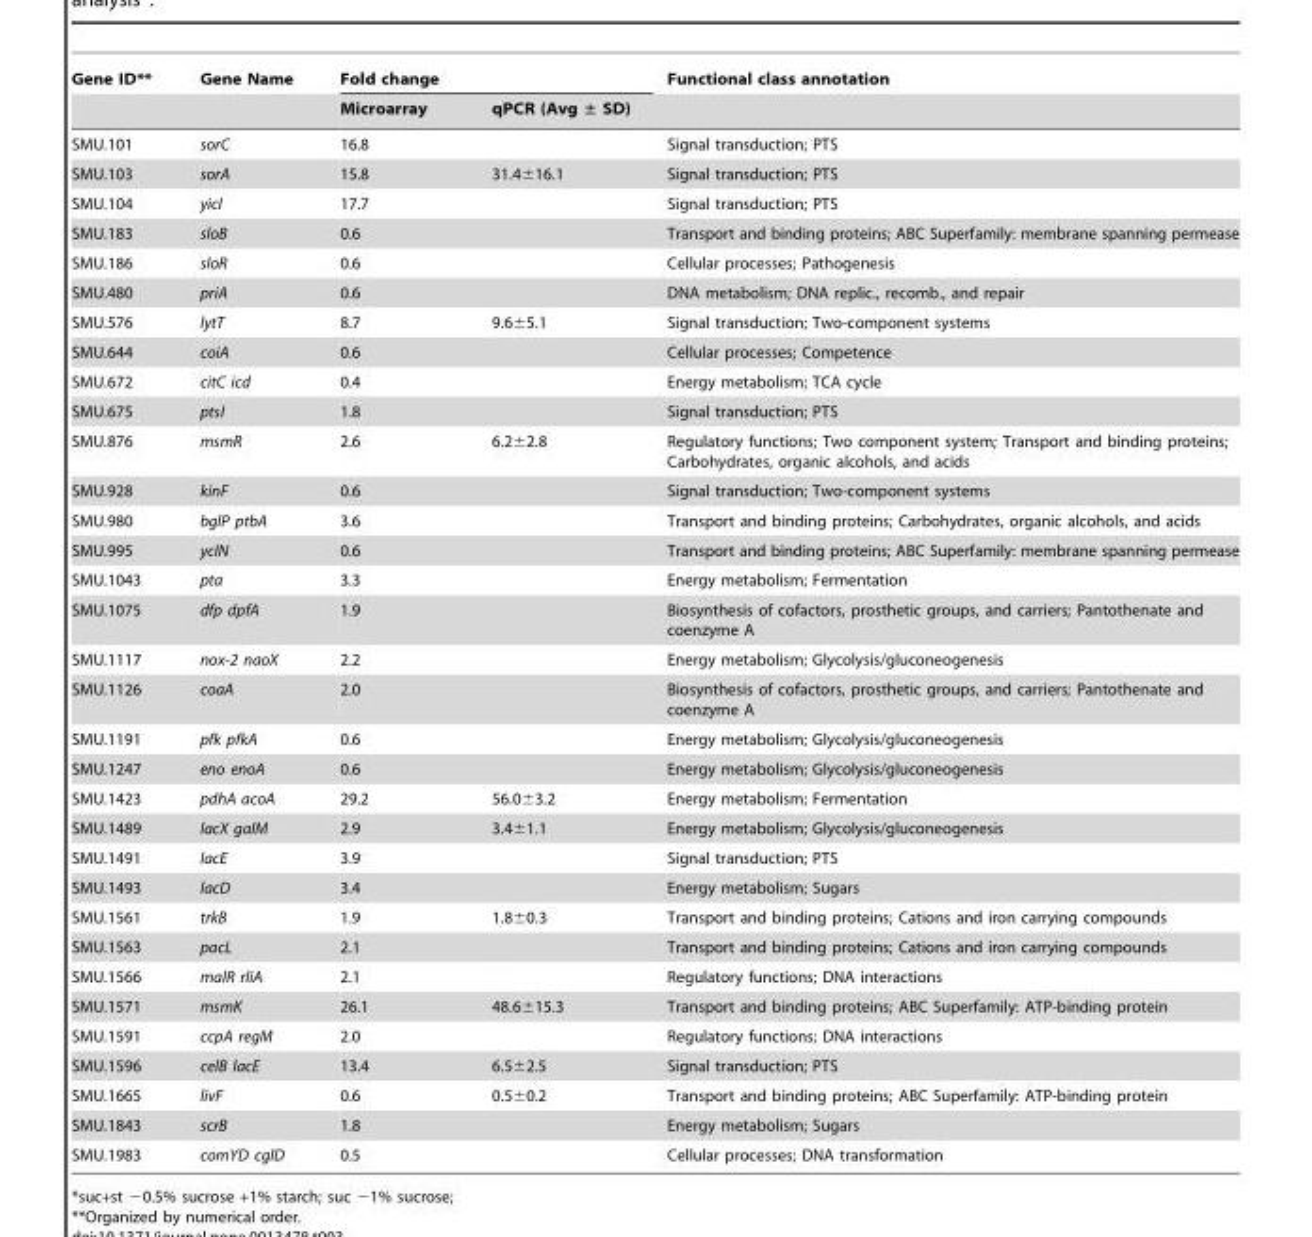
<table><thead><tr><td rowspan="2">Gene ID**</td><td rowspan="2">Gene Name</td><td colspan="2">Fold change</td><td rowspan="2">Functional class annotation</td></tr><tr><td>Microarray</td><td>qPCR (Avg ± SD)</td></tr></thead><tbody><tr><td>SMU.101</td><td>sorC</td><td>16.8</td><td></td><td>Signal transduction; PTS</td></tr><tr><td>SMU.103</td><td>sorA</td><td>15.8</td><td>31.4±16.1</td><td>Signal transduction; PTS</td></tr><tr><td>SMU.104</td><td>yicI</td><td>17.7</td><td></td><td>Signal transduction; PTS</td></tr><tr><td>SMU.183</td><td>sloB</td><td>0.6</td><td></td><td>Transport and binding proteins; ABC Superfamily: membrane spanning permease</td></tr><tr><td>SMU.186</td><td>sloR</td><td>0.6</td><td></td><td>Cellular processes; Pathogenesis</td></tr><tr><td>SMU.480</td><td>priA</td><td>0.6</td><td></td><td>DNA metabolism; DNA replic., recomb., and repair</td></tr><tr><td>SMU.576</td><td>lytT</td><td>8.7</td><td>9.6±5.1</td><td>Signal transduction; Two-component systems</td></tr><tr><td>SMU.644</td><td>coiA</td><td>0.6</td><td></td><td>Cellular processes; Competence</td></tr><tr><td>SMU.672</td><td>citC icd</td><td>0.4</td><td></td><td>Energy metabolism; TCA cycle</td></tr><tr><td>SMU.675</td><td>ptsI</td><td>1.8</td><td></td><td>Signal transduction; PTS</td></tr><tr><td>SMU.876</td><td>msmR</td><td>2.6</td><td>6.2±2.8</td><td>Regulatory functions; Two component system; Transport and binding proteins; Carbohydrates, organic alcohols, and acids</td></tr><tr><td>SMU.928</td><td>kinF</td><td>0.6</td><td></td><td>Signal transduction; Two-component systems</td></tr><tr><td>SMU.980</td><td>bglP ptbA</td><td>3.6</td><td></td><td>Transport and binding proteins; Carbohydrates, organic alcohols, and acids</td></tr><tr><td>SMU.995</td><td>yclN</td><td>0.6</td><td></td><td>Transport and binding proteins; ABC Superfamily: membrane spanning permease</td></tr><tr><td>SMU.1043</td><td>pta</td><td>3.3</td><td></td><td>Energy metabolism; Fermentation</td></tr><tr><td>SMU.1075</td><td>dfp dpfA</td><td>1.9</td><td></td><td>Biosynthesis of cofactors, prosthetic groups, and carriers; Pantothenate and coenzyme A</td></tr><tr><td>SMU.1117</td><td>nox-2 naoX</td><td>2.2</td><td></td><td>Energy metabolism; Glycolysis/gluconeogenesis</td></tr><tr><td>SMU.1126</td><td>coaA</td><td>2.0</td><td></td><td>Biosynthesis of cofactors, prosthetic groups, and carriers; Pantothenate and coenzyme A</td></tr><tr><td>SMU.1191</td><td>pfk pfkA</td><td>0.6</td><td></td><td>Energy metabolism; Glycolysis/gluconeogenesis</td></tr><tr><td>SMU.1247</td><td>eno enoA</td><td>0.6</td><td></td><td>Energy metabolism; Glycolysis/gluconeogenesis</td></tr><tr><td>SMU.1423</td><td>pdhA acoA</td><td>29.2</td><td>56.0±3.2</td><td>Energy metabolism; Fermentation</td></tr><tr><td>SMU.1489</td><td>lacX galM</td><td>2.9</td><td>3.4±1.1</td><td>Energy metabolism; Glycolysis/gluconeogenesis</td></tr><tr><td>SMU.1491</td><td>lacE</td><td>3.9</td><td></td><td>Signal transduction; PTS</td></tr><tr><td>SMU.1493</td><td>lacD</td><td>3.4</td><td></td><td>Energy metabolism; Sugars</td></tr><tr><td>SMU.1561</td><td>trkB</td><td>1.9</td><td>1.8±0.3</td><td>Transport and binding proteins; Cations and iron carrying compounds</td></tr><tr><td>SMU.1563</td><td>pacL</td><td>2.1</td><td></td><td>Transport and binding proteins; Cations and iron carrying compounds</td></tr><tr><td>SMU.1566</td><td>malR rliA</td><td>2.1</td><td></td><td>Regulatory functions; DNA interactions</td></tr><tr><td>SMU.1571</td><td>msmK</td><td>26.1</td><td>48.6±15.3</td><td>Transport and binding proteins; ABC Superfamily: ATP-binding protein</td></tr><tr><td>SMU.1591</td><td>ccpA regM</td><td>2.0</td><td></td><td>Regulatory functions; DNA interactions</td></tr><tr><td>SMU.1596</td><td>celB lacE</td><td>13.4</td><td>6.5±2.5</td><td>Signal transduction; PTS</td></tr><tr><td>SMU.1665</td><td>livF</td><td>0.6</td><td>0.5±0.2</td><td>Transport and binding proteins; ABC Superfamily: ATP-binding protein</td></tr><tr><td>SMU.1843</td><td>scrB</td><td>1.8</td><td></td><td>Energy metabolism; Sugars</td></tr><tr><td>SMU.1983</td><td>comYD cglD</td><td>0.5</td><td></td><td>Cellular processes; DNA transformation</td></tr></tbody></table>